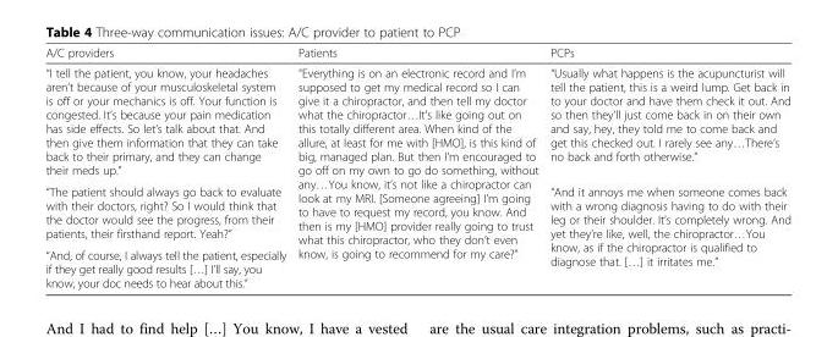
<table><thead><tr><td>A/C providers</td><td>Patients</td><td>PCPs</td></tr></thead><tbody><tr><td>“I tell the patient, you know, your headaches aren’t because of your musculoskeletal system is off or your mechanics is off. Your function is congested. It’s because your pain medication has side effects. So let’s talk about that. And then give them information that they can take back to their primary, and they can change their meds up.”</td><td rowspan="3">“Everything is on an electronic record and I’m supposed to get my medical record so I can give it a chiropractor, and then tell my doctor what the chiropractor…It’s like going out on this totally different area. When kind of the allure, at least for me with [HMO], is this kind of big, managed plan. But then I’m encouraged to go off on my own to go do something, without any…You know, it’s not like a chiropractor can look at my MRI. [Someone agreeing] I’m going to have to request my record, you know. And then is my [HMO] provider really going to trust what this chiropractor, who they don’t even know, is going to recommend for my care?”</td><td>“Usually what happens is the acupuncturist will tell the patient, this is a weird lump. Get back in to your doctor and have them check it out. And so then they’ll just come back in on their own and say, hey, they told me to come back and get this checked out. I rarely see any…There’s no back and forth otherwise.”</td></tr><tr><td>“The patient should always go back to evaluate with their doctors, right? So I would think that the doctor would see the progress, from their patients, their firsthand report. Yeah?”</td><td rowspan="2">“And it annoys me when someone comes back with a wrong diagnosis having to do with their leg or their shoulder. It’s completely wrong. And yet they’re like, well, the chiropractor…You know, as if the chiropractor is qualified to diagnose that. […] it irritates me.”</td></tr><tr><td>“And, of course, I always tell the patient, especially if they get really good results […] I’ll say, you know, your doc needs to hear about this.”</td></tr></tbody></table>